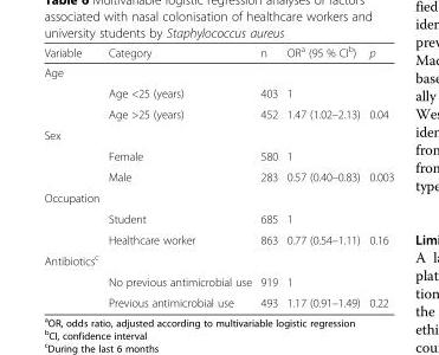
<table><thead><tr><td>Variable</td><td>Category</td><td>n</td><td>OR<sup>a</sup> (95 % CI<sup>b</sup>)</td><td>p</td></tr></thead><tbody><tr><td colspan="5">Age</td></tr><tr><td></td><td>Age &lt;25 (years)</td><td>403</td><td>1</td><td></td></tr><tr><td></td><td>Age &gt;25 (years)</td><td>452</td><td>1.47 (1.02–2.13)</td><td>0.04</td></tr><tr><td colspan="5">Sex</td></tr><tr><td></td><td>Female</td><td>580</td><td>1</td><td></td></tr><tr><td></td><td>Male</td><td>283</td><td>0.57 (0.40–0.83)</td><td>0.003</td></tr><tr><td colspan="5">Occupation</td></tr><tr><td></td><td>Student</td><td>685</td><td>1</td><td></td></tr><tr><td></td><td>Healthcare worker</td><td>863</td><td>0.77 (0.54–1.11)</td><td>0.16</td></tr><tr><td colspan="5">Antibiotics<sup>c</sup></td></tr><tr><td></td><td>No previous antimicrobial use</td><td>919</td><td>1</td><td></td></tr><tr><td></td><td>Previous antimicrobial use</td><td>493</td><td>1.17 (0.91–1.49)</td><td>0.22</td></tr></tbody></table>